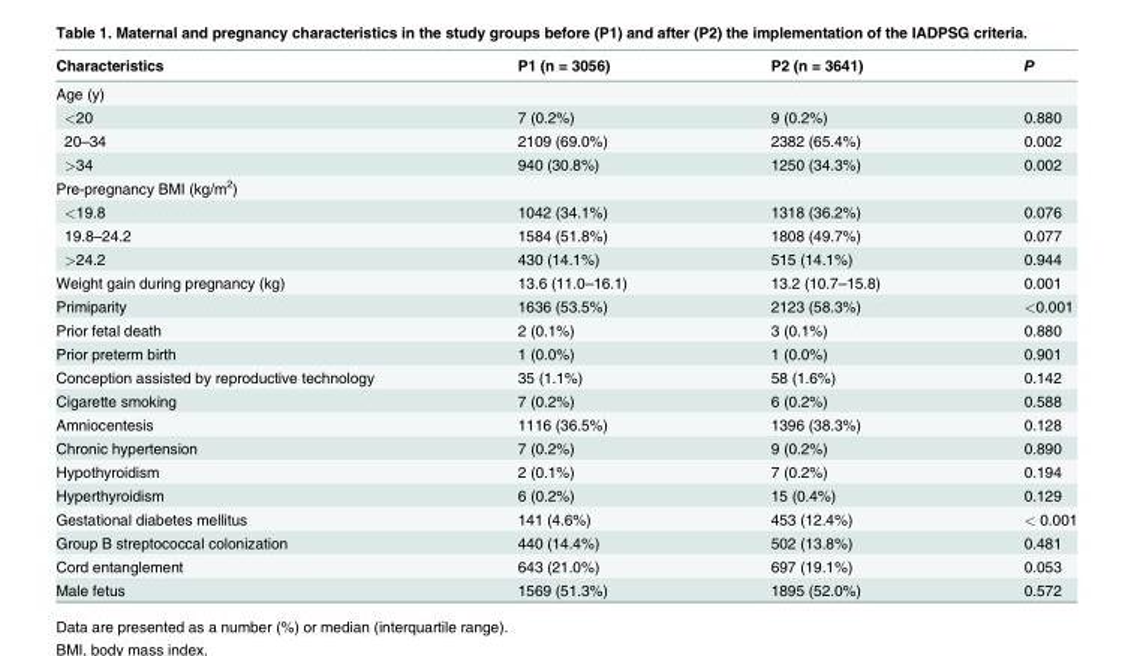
<table><thead><tr><td>Characteristics</td><td>P1 (n = 3056)</td><td>P2 (n = 3641)</td><td>P</td></tr></thead><tbody><tr><td colspan="4">Age (y)</td></tr><tr><td>&lt;20</td><td>7 (0.2%)</td><td>9 (0.2%)</td><td>0.880</td></tr><tr><td>20–34</td><td>2109 (69.0%)</td><td>2382 (65.4%)</td><td>0.002</td></tr><tr><td>&gt;34</td><td>940 (30.8%)</td><td>1250 (34.3%)</td><td>0.002</td></tr><tr><td colspan="4">Pre-pregnancy BMI (kg/m<sup>2</sup>)</td></tr><tr><td>&lt;19.8</td><td>1042 (34.1%)</td><td>1318 (36.2%)</td><td>0.076</td></tr><tr><td>19.8–24.2</td><td>1584 (51.8%)</td><td>1808 (49.7%)</td><td>0.077</td></tr><tr><td>&gt;24.2</td><td>430 (14.1%)</td><td>515 (14.1%)</td><td>0.944</td></tr><tr><td>Weight gain during pregnancy (kg)</td><td>13.6 (11.0–16.1)</td><td>13.2 (10.7–15.8)</td><td>0.001</td></tr><tr><td>Primiparity</td><td>1636 (53.5%)</td><td>2123 (58.3%)</td><td>&lt;0.001</td></tr><tr><td>Prior fetal death</td><td>2 (0.1%)</td><td>3 (0.1%)</td><td>0.880</td></tr><tr><td>Prior preterm birth</td><td>1 (0.0%)</td><td>1 (0.0%)</td><td>0.901</td></tr><tr><td>Conception assisted by reproductive technology</td><td>35 (1.1%)</td><td>58 (1.6%)</td><td>0.142</td></tr><tr><td>Cigarette smoking</td><td>7 (0.2%)</td><td>6 (0.2%)</td><td>0.588</td></tr><tr><td>Amniocentesis</td><td>1116 (36.5%)</td><td>1396 (38.3%)</td><td>0.128</td></tr><tr><td>Chronic hypertension</td><td>7 (0.2%)</td><td>9 (0.2%)</td><td>0.890</td></tr><tr><td>Hypothyroidism</td><td>2 (0.1%)</td><td>7 (0.2%)</td><td>0.194</td></tr><tr><td>Hyperthyroidism</td><td>6 (0.2%)</td><td>15 (0.4%)</td><td>0.129</td></tr><tr><td>Gestational diabetes mellitus</td><td>141 (4.6%)</td><td>453 (12.4%)</td><td>&lt; 0.001</td></tr><tr><td>Group B streptococcal colonization</td><td>440 (14.4%)</td><td>502 (13.8%)</td><td>0.481</td></tr><tr><td>Cord entanglement</td><td>643 (21.0%)</td><td>697 (19.1%)</td><td>0.053</td></tr><tr><td>Male fetus</td><td>1569 (51.3%)</td><td>1895 (52.0%)</td><td>0.572</td></tr></tbody></table>